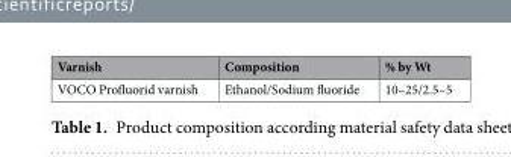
<table><thead><tr><td>Varnish</td><td>Composition</td><td>% by Wt</td></tr></thead><tbody><tr><td>VOCO Profluorid varnish</td><td>Ethanol/Sodium fluoride</td><td>10–25/2.5–5</td></tr></tbody></table>